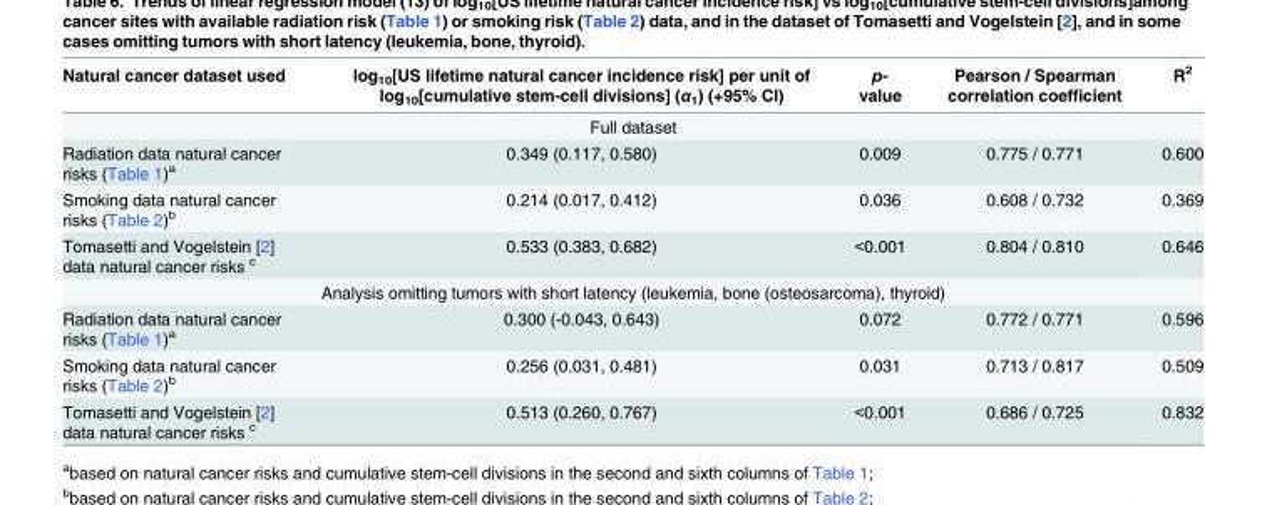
<table><thead><tr><td>Natural cancer dataset used</td><td>log<sub>10</sub>[US lifetime natural cancer incidence risk] per unit of log<sub>10</sub>[cumulative stem-cell divisions] (α<sub>1</sub>) (+95% CI)</td><td>p- value</td><td>Pearson / Spearman correlation coefficient</td><td>R<sup>2</sup></td></tr></thead><tbody><tr><td colspan="5">Full dataset</td></tr><tr><td>Radiation data natural cancer risks (Table 1)<sup>a</sup></td><td>0.349 (0.117, 0.580)</td><td>0.009</td><td>0.775 / 0.771</td><td>0.600</td></tr><tr><td>Smoking data natural cancer risks (Table 2)<sup>b</sup></td><td>0.214 (0.017, 0.412)</td><td>0.036</td><td>0.608 / 0.732</td><td>0.369</td></tr><tr><td>Tomasetti and Vogelstein [2] data natural cancer risks <sup>c</sup></td><td>0.533 (0.383, 0.682)</td><td>&lt;0.001</td><td>0.804 / 0.810</td><td>0.646</td></tr><tr><td colspan="5">Analysis omitting tumors with short latency (leukemia, bone (osteosarcoma), thyroid)</td></tr><tr><td>Radiation data natural cancer risks (Table 1)<sup>a</sup></td><td>0.300 (-0.043, 0.643)</td><td>0.072</td><td>0.772 / 0.771</td><td>0.596</td></tr><tr><td>Smoking data natural cancer risks (Table 2)<sup>b</sup></td><td>0.256 (0.031, 0.481)</td><td>0.031</td><td>0.713 / 0.817</td><td>0.509</td></tr><tr><td>Tomasetti and Vogelstein [2] data natural cancer risks <sup>c</sup></td><td>0.513 (0.260, 0.767)</td><td>&lt;0.001</td><td>0.686 / 0.725</td><td>0.832</td></tr></tbody></table>